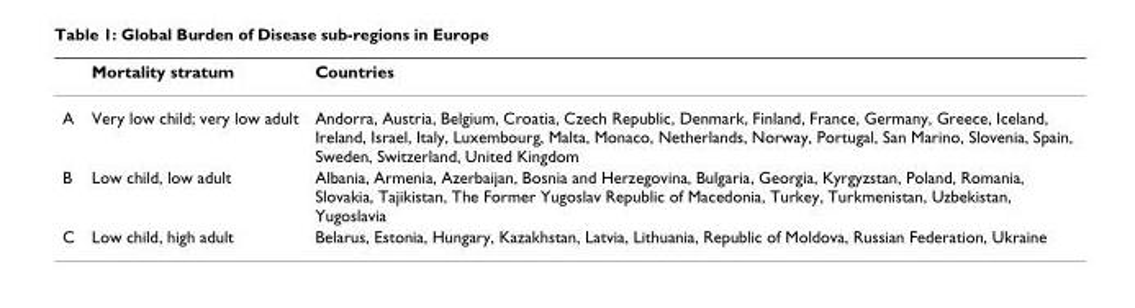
<table><thead><tr><td></td><td>Mortality stratum</td><td>Countries</td></tr></thead><tbody><tr><td>A</td><td>Very low child; very low adult</td><td>Andorra, Austria, Belgium, Croatia, Czech Republic, Denmark, Finland, France, Germany, Greece, Iceland, Ireland, Israel, Italy, Luxembourg, Malta, Monaco, Netherlands, Norway, Portugal, San Marino, Slovenia, Spain, Sweden, Switzerland, United Kingdom</td></tr><tr><td>B</td><td>Low child, low adult</td><td>Albania, Armenia, Azerbaijan, Bosnia and Herzegovina, Bulgaria, Georgia, Kyrgyzstan, Poland, Romania, Slovakia, Tajikistan, The Former Yugoslav Republic of Macedonia, Turkey, Turkmenistan, Uzbekistan, Yugoslavia</td></tr><tr><td>C</td><td>Low child, high adult</td><td>Belarus, Estonia, Hungary, Kazakhstan, Latvia, Lithuania, Republic of Moldova, Russian Federation, Ukraine</td></tr></tbody></table>